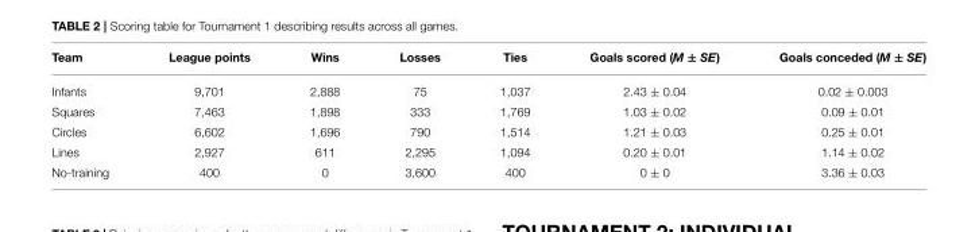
<table><thead><tr><td>Team</td><td>League points</td><td>Wins</td><td>Losses</td><td>Ties</td><td>Goals scored (M ± SE)</td><td>Goals conceded (M ± SE)</td></tr></thead><tbody><tr><td>Infants</td><td>9,701</td><td>2,888</td><td>75</td><td>1,037</td><td>2.43 ± 0.04</td><td>0.02 ± 0.003</td></tr><tr><td>Squares</td><td>7,463</td><td>1,898</td><td>333</td><td>1,769</td><td>1.03 ± 0.02</td><td>0.09 ± 0.01</td></tr><tr><td>Circles</td><td>6,602</td><td>1,696</td><td>790</td><td>1,514</td><td>1.21 ± 0.03</td><td>0.25 ± 0.01</td></tr><tr><td>Lines</td><td>2,927</td><td>611</td><td>2,295</td><td>1,094</td><td>0.20 ± 0.01</td><td>1.14 ± 0.02</td></tr><tr><td>No-training</td><td>400</td><td>0</td><td>3,600</td><td>400</td><td>0 ± 0</td><td>3.36 ± 0.03</td></tr></tbody></table>